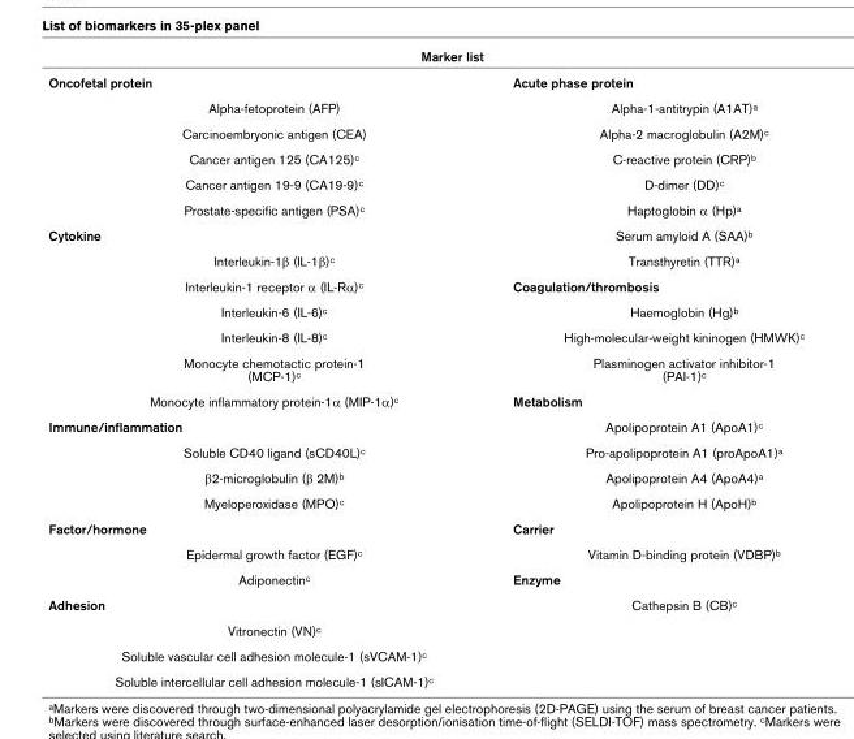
<table><thead><tr><td colspan="2">Marker list</td></tr><tr><td>Oncofetal protein</td><td>Acute phase protein</td></tr></thead><tbody><tr><td>Alpha-fetoprotein (AFP)</td><td>Alpha-1-antitrypin (A1AT)<sup>a</sup></td></tr><tr><td>Carcinoembryonic antigen (CEA)</td><td>Alpha-2 macroglobulin (A2M)<sup>c</sup></td></tr><tr><td>Cancer antigen 125 (CA125)<sup>c</sup></td><td>C-reactive protein (CRP)<sup>b</sup></td></tr><tr><td>Cancer antigen 19-9 (CA19-9)<sup>c</sup></td><td>D-dimer (DD)<sup>c</sup></td></tr><tr><td>Prostate-specific antigen (PSA)<sup>c</sup></td><td>Haptoglobin α (Hp)<sup>a</sup></td></tr><tr><td>Cytokine</td><td>Serum amyloid A (SAA)<sup>b</sup></td></tr><tr><td>Interleukin-1β (IL-1β)<sup>c</sup></td><td>Transthyretin (TTR)<sup>a</sup></td></tr><tr><td>Interleukin-1 receptor α (IL-Rα)<sup>c</sup></td><td>Coagulation/thrombosis</td></tr><tr><td>Interleukin-6 (IL-6)<sup>c</sup></td><td>Haemoglobin (Hg)<sup>b</sup></td></tr><tr><td>Interleukin-8 (IL-8)<sup>c</sup></td><td>High-molecular-weight kininogen (HMWK)<sup>c</sup></td></tr><tr><td>Monocyte chemotactic protein-1 (MCP-1)<sup>c</sup></td><td>Plasminogen activator inhibitor-1 (PAI-1)<sup>c</sup></td></tr><tr><td>Monocyte inflammatory protein-1α (MIP-1α)<sup>c</sup></td><td>Metabolism</td></tr><tr><td>Immune/inflammation</td><td>Apolipoprotein A1 (ApoA1)<sup>c</sup></td></tr><tr><td>Soluble CD40 ligand (sCD40L)<sup>c</sup></td><td>Pro-apolipoprotein A1 (proApoA1)<sup>a</sup></td></tr><tr><td>β2-microglobulin (β 2M)<sup>b</sup></td><td>Apolipoprotein A4 (ApoA4)<sup>a</sup></td></tr><tr><td>Myeloperoxidase (MPO)<sup>c</sup></td><td>Apolipoprotein H (ApoH)<sup>b</sup></td></tr><tr><td>Factor/hormone</td><td>Carrier</td></tr><tr><td>Epidermal growth factor (EGF)<sup>c</sup></td><td>Vitamin D-binding protein (VDBP)<sup>b</sup></td></tr><tr><td>Adiponectin<sup>c</sup></td><td>Enzyme</td></tr><tr><td>Adhesion</td><td>Cathepsin B (CB)<sup>c</sup></td></tr><tr><td colspan="2">Vitronectin (VN)<sup>c</sup></td></tr><tr><td colspan="2">Soluble vascular cell adhesion molecule-1 (sVCAM-1)<sup>c</sup></td></tr><tr><td>Soluble intercellular cell adhesion molecule-1 (sICAM-1)<sup>c</sup></td><td></td></tr></tbody></table>